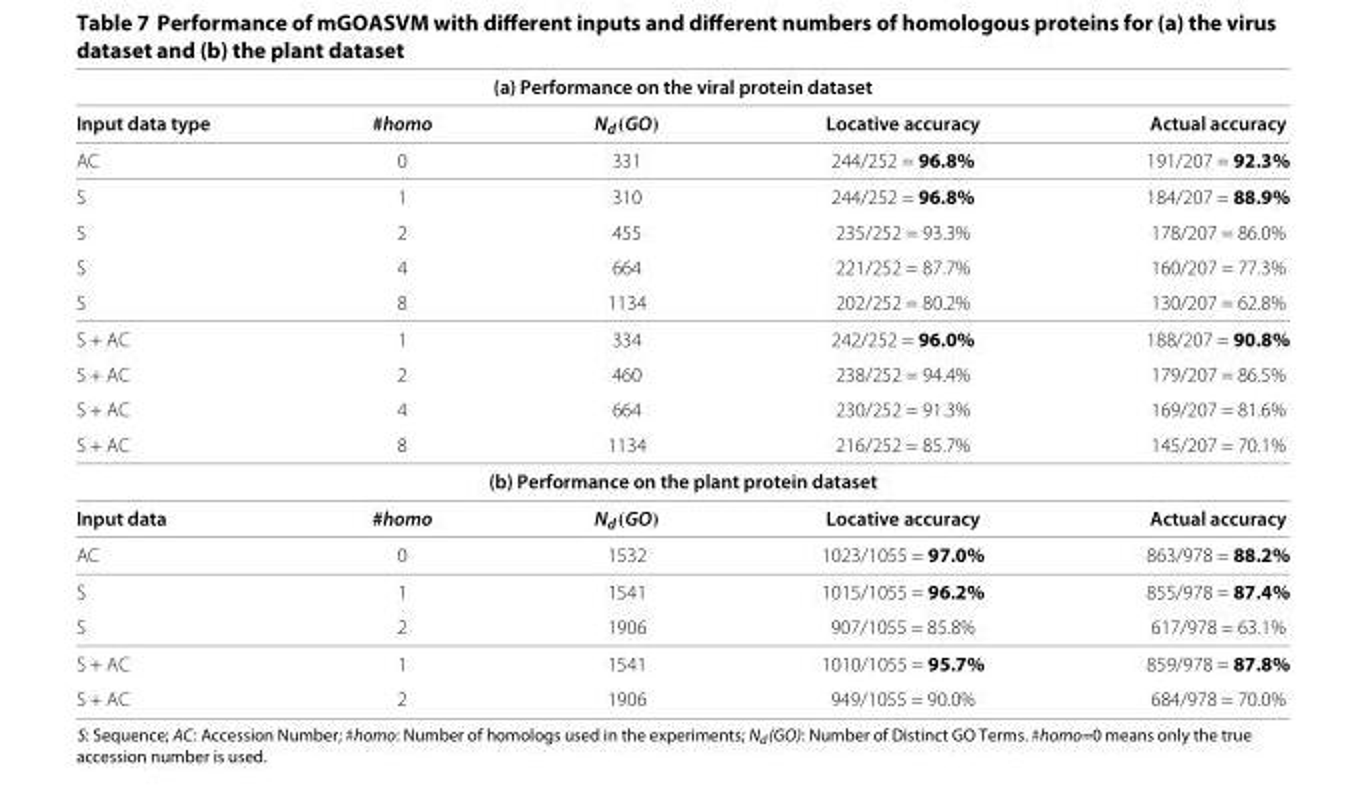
<table><thead><tr><td colspan="4">(a) Performance on the viral protein dataset</td><td rowspan="2">Actual accuracy</td></tr><tr><td>Input data type</td><td>#homo</td><td>N<sub>d</sub>(GO)</td><td>Locative accuracy</td></tr></thead><tbody><tr><td>AC</td><td>0</td><td>331</td><td>244/252 = 96.8%</td><td>191/207 = 92.3%</td></tr><tr><td>S</td><td>1</td><td>310</td><td>244/252 = 96.8%</td><td>184/207 = 88.9%</td></tr><tr><td>S</td><td>2</td><td>455</td><td>235/252 = 93.3%</td><td>178/207 = 86.0%</td></tr><tr><td>S</td><td>4</td><td>664</td><td>221/252 = 87.7%</td><td>160/207 = 77.3%</td></tr><tr><td>S</td><td>8</td><td>1134</td><td>202/252 = 80.2%</td><td>130/207 = 62.8%</td></tr><tr><td>S + AC</td><td>1</td><td>334</td><td>242/252 = 96.0%</td><td>188/207 = 90.8%</td></tr><tr><td>S + AC</td><td>2</td><td>460</td><td>238/252 = 94.4%</td><td>179/207 = 86.5%</td></tr><tr><td>S + AC</td><td>4</td><td>664</td><td>230/252 = 91.3%</td><td>169/207 = 81.6%</td></tr><tr><td>S + AC</td><td>8</td><td>1134</td><td>216/252 = 85.7%</td><td>145/207 = 70.1%</td></tr><tr><td colspan="5">(b) Performance on the plant protein dataset</td></tr><tr><td>Input data</td><td>#homo</td><td>N<sub>d</sub>(GO)</td><td>Locative accuracy</td><td>Actual accuracy</td></tr><tr><td>AC</td><td>0</td><td>1532</td><td>1023/1055 = 97.0%</td><td>863/978 = 88.2%</td></tr><tr><td>S</td><td>1</td><td>1541</td><td>1015/1055 = 96.2%</td><td>855/978 = 87.4%</td></tr><tr><td>S</td><td>2</td><td>1906</td><td>907/1055 = 85.8%</td><td>617/978 = 63.1%</td></tr><tr><td>S + AC</td><td>1</td><td>1541</td><td>1010/1055 = 95.7%</td><td>859/978 = 87.8%</td></tr><tr><td>S + AC</td><td>2</td><td>1906</td><td>949/1055 = 90.0%</td><td>684/978 = 70.0%</td></tr></tbody></table>